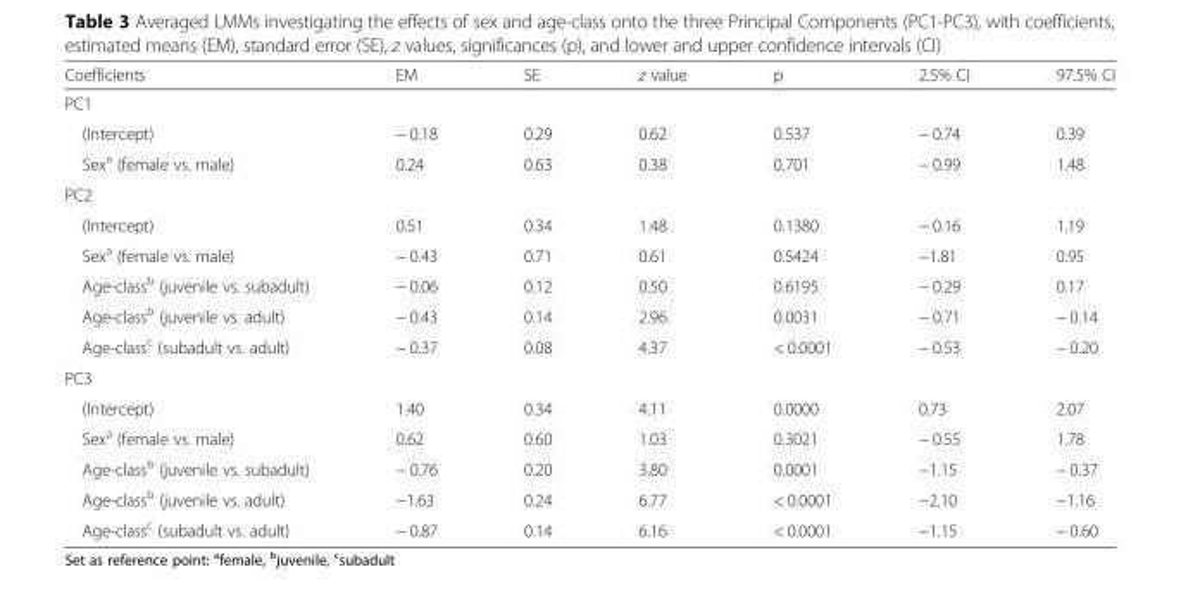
<table><thead><tr><td>Coefficients</td><td>EM</td><td>SE</td><td>z value</td><td>p</td><td>2.5% CI</td><td>97.5% CI</td></tr></thead><tbody><tr><td colspan="7">PC1</td></tr><tr><td>(Intercept)</td><td>− 0.18</td><td>0.29</td><td>0.62</td><td>0.537</td><td>− 0.74</td><td>0.39</td></tr><tr><td>Sex<sup>a</sup> (female vs. male)</td><td>0.24</td><td>0.63</td><td>0.38</td><td>0.701</td><td>− 0.99</td><td>1.48</td></tr><tr><td colspan="7">PC2</td></tr><tr><td>(Intercept)</td><td>0.51</td><td>0.34</td><td>1.48</td><td>0.1380</td><td>− 0.16</td><td>1.19</td></tr><tr><td>Sex<sup>a</sup> (female vs. male)</td><td>− 0.43</td><td>0.71</td><td>0.61</td><td>0.5424</td><td>−1.81</td><td>0.95</td></tr><tr><td>Age-class<sup>b</sup> (juvenile vs. subadult)</td><td>− 0.06</td><td>0.12</td><td>0.50</td><td>0.6195</td><td>− 0.29</td><td>0.17</td></tr><tr><td>Age-class<sup>b</sup> (juvenile vs. adult)</td><td>− 0.43</td><td>0.14</td><td>2.96</td><td>0.0031</td><td>− 0.71</td><td>− 0.14</td></tr><tr><td>Age-class<sup>c</sup> (subadult vs. adult)</td><td>− 0.37</td><td>0.08</td><td>4.37</td><td>&lt; 0.0001</td><td>− 0.53</td><td>− 0.20</td></tr><tr><td colspan="7">PC3</td></tr><tr><td>(Intercept)</td><td>1.40</td><td>0.34</td><td>4.11</td><td>0.0000</td><td>0.73</td><td>2.07</td></tr><tr><td>Sex<sup>a</sup> (female vs. male)</td><td>0.62</td><td>0.60</td><td>1.03</td><td>0.3021</td><td>− 0.55</td><td>1.78</td></tr><tr><td>Age-class<sup>b</sup> (juvenile vs. subadult)</td><td>− 0.76</td><td>0.20</td><td>3.80</td><td>0.0001</td><td>−1.15</td><td>− 0.37</td></tr><tr><td>Age-class<sup>b</sup> (juvenile vs. adult)</td><td>−1.63</td><td>0.24</td><td>6.77</td><td>&lt; 0.0001</td><td>−2.10</td><td>−1.16</td></tr><tr><td>Age-class<sup>c</sup> (subadult vs. adult)</td><td>− 0.87</td><td>0.14</td><td>6.16</td><td>&lt; 0.0001</td><td>−1.15</td><td>− 0.60</td></tr></tbody></table>